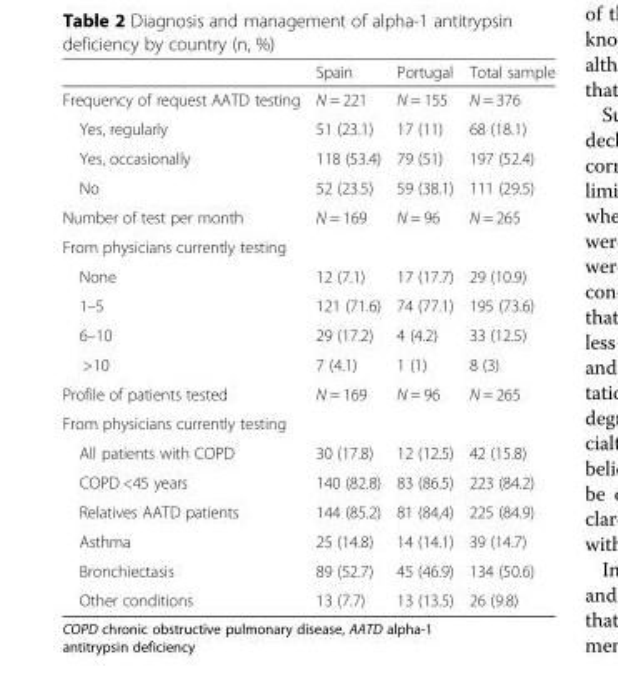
<table><thead><tr><td></td><td>Spain</td><td>Portugal</td><td>Total sample</td></tr></thead><tbody><tr><td>Frequency of request AATD testing</td><td>N = 221</td><td>N = 155</td><td>N = 376</td></tr><tr><td>Yes, regularly</td><td>51 (23.1)</td><td>17 (11)</td><td>68 (18.1)</td></tr><tr><td>Yes, occasionally</td><td>118 (53.4)</td><td>79 (51)</td><td>197 (52.4)</td></tr><tr><td>No</td><td>52 (23.5)</td><td>59 (38.1)</td><td>111 (29.5)</td></tr><tr><td>Number of test per month</td><td rowspan="2">N = 169</td><td rowspan="2">N = 96</td><td rowspan="2">N = 265</td></tr><tr><td>From physicians currently testing</td></tr><tr><td>None</td><td>12 (7.1)</td><td>17 (17.7)</td><td>29 (10.9)</td></tr><tr><td>1–5</td><td>121 (71.6)</td><td>74 (77.1)</td><td>195 (73.6)</td></tr><tr><td>6–10</td><td>29 (17.2)</td><td>4 (4.2)</td><td>33 (12.5)</td></tr><tr><td>&gt;10</td><td>7 (4.1)</td><td>1 (1)</td><td>8 (3)</td></tr><tr><td>Profile of patients tested</td><td rowspan="2">N = 169</td><td rowspan="2">N = 96</td><td rowspan="2">N = 265</td></tr><tr><td>From physicians currently testing</td></tr><tr><td>All patients with COPD</td><td>30 (17.8)</td><td>12 (12.5)</td><td>42 (15.8)</td></tr><tr><td>COPD &lt;45 years</td><td>140 (82.8)</td><td>83 (86.5)</td><td>223 (84.2)</td></tr><tr><td>Relatives AATD patients</td><td>144 (85.2)</td><td>81 (84,4)</td><td>225 (84.9)</td></tr><tr><td>Asthma</td><td>25 (14.8)</td><td>14 (14.1)</td><td>39 (14.7)</td></tr><tr><td>Bronchiectasis</td><td>89 (52.7)</td><td>45 (46.9)</td><td>134 (50.6)</td></tr><tr><td>Other conditions</td><td>13 (7.7)</td><td>13 (13.5)</td><td>26 (9.8)</td></tr></tbody></table>